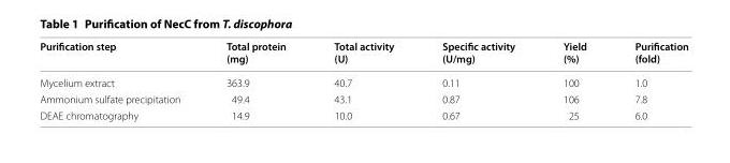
<table><thead><tr><td>Purification step</td><td>Total protein (mg)</td><td>Total activity (U)</td><td>Specific activity (U/mg)</td><td>Yield (%)</td><td>Purification (fold)</td></tr></thead><tbody><tr><td>Mycelium extract</td><td>363.9</td><td>40.7</td><td>0.11</td><td>100</td><td>1.0</td></tr><tr><td>Ammonium sulfate precipitation</td><td>49.4</td><td>43.1</td><td>0.87</td><td>106</td><td>7.8</td></tr><tr><td>DEAE chromatography</td><td>14.9</td><td>10.0</td><td>0.67</td><td>25</td><td>6.0</td></tr></tbody></table>